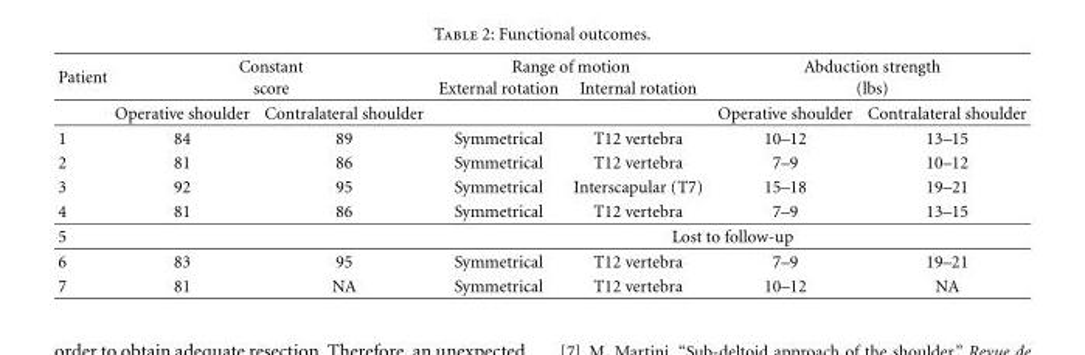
<table><thead><tr><td rowspan="3">Patient</td><td rowspan="2" colspan="2">Constant score</td><td colspan="2">Range of motion</td><td rowspan="2" colspan="2">Abduction strength (lbs)</td></tr><tr><td rowspan="2">External rotation</td><td rowspan="2">Internal rotation</td></tr><tr><td>Operative shoulder</td><td>Contralateral shoulder</td><td>Operative shoulder</td><td>Contralateral shoulder</td></tr></thead><tbody><tr><td>1</td><td>84</td><td>89</td><td>Symmetrical</td><td>T12 vertebra</td><td>10–12</td><td>13–15</td></tr><tr><td>2</td><td>81</td><td>86</td><td>Symmetrical</td><td>T12 vertebra</td><td>7–9</td><td>10–12</td></tr><tr><td>3</td><td>92</td><td>95</td><td>Symmetrical</td><td>Interscapular (T7)</td><td>15–18</td><td>19–21</td></tr><tr><td>4</td><td>81</td><td>86</td><td>Symmetrical</td><td>T12 vertebra</td><td>7–9</td><td>13–15</td></tr><tr><td>5</td><td></td><td></td><td colspan="4">Lost to follow-up</td></tr><tr><td>6</td><td>83</td><td>95</td><td>Symmetrical</td><td>T12 vertebra</td><td>7–9</td><td>19–21</td></tr><tr><td>7</td><td>81</td><td>NA</td><td>Symmetrical</td><td>T12 vertebra</td><td>10–12</td><td>NA</td></tr></tbody></table>